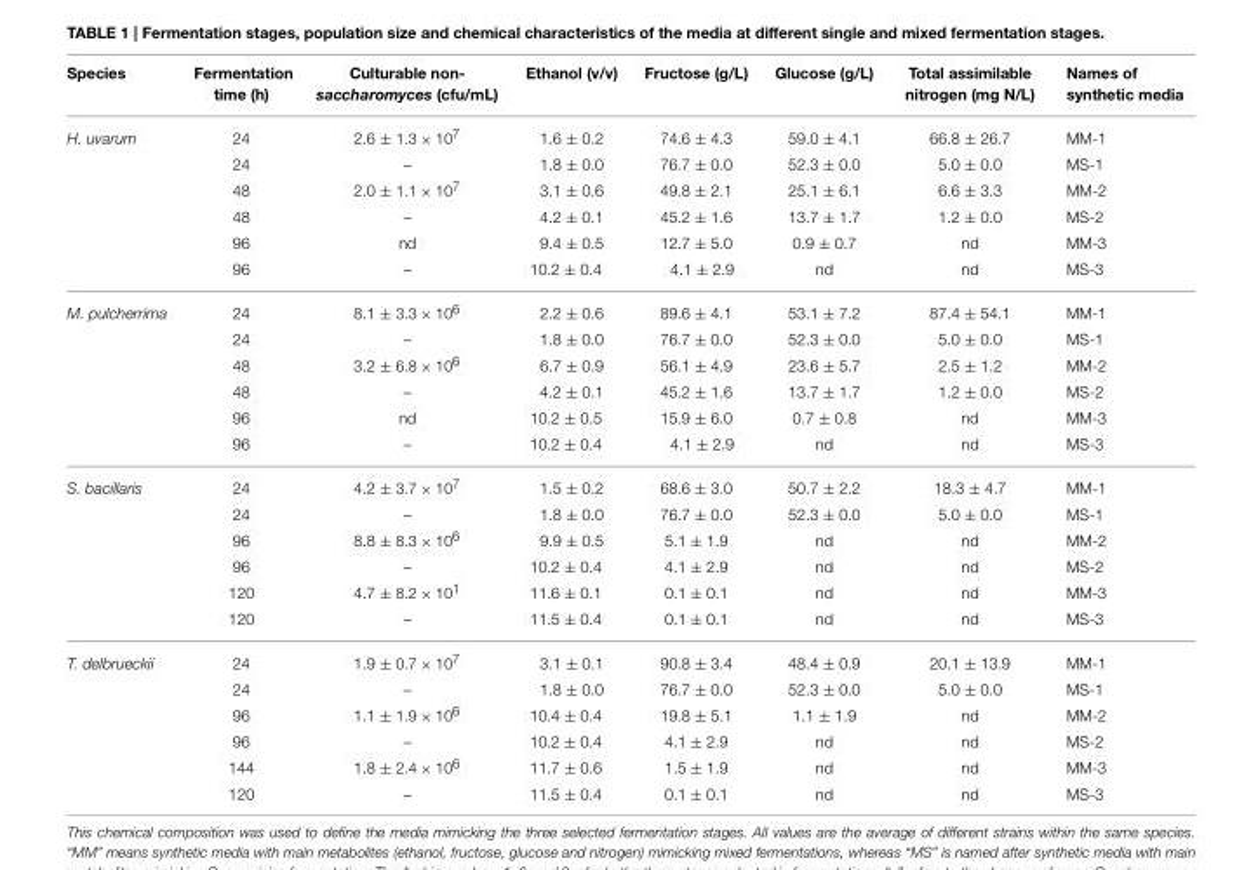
<table><thead><tr><td>Species</td><td>Fermentation time (h)</td><td>Culturable non- saccharomyces (cfu/mL)</td><td>Ethanol (v/v)</td><td>Fructose (g/L)</td><td>Glucose (g/L)</td><td>Total assimilable nitrogen (mg N/L)</td><td>Names of synthetic media</td></tr></thead><tbody><tr><td rowspan="6">H. uvarum</td><td>24</td><td>2.6 ± 1.3 × 10<sup>7</sup></td><td>1.6 ± 0.2</td><td>74.6 ± 4.3</td><td>59.0 ± 4.1</td><td>66.8 ± 26.7</td><td>MM-1</td></tr><tr><td>24</td><td>–</td><td>1.8 ± 0.0</td><td>76.7 ± 0.0</td><td>52.3 ± 0.0</td><td>5.0 ± 0.0</td><td>MS-1</td></tr><tr><td>48</td><td>2.0 ± 1.1 × 10<sup>7</sup></td><td>3.1 ± 0.6</td><td>49.8 ± 2.1</td><td>25.1 ± 6.1</td><td>6.6 ± 3.3</td><td>MM-2</td></tr><tr><td>48</td><td>–</td><td>4.2 ± 0.1</td><td>45.2 ± 1.6</td><td>13.7 ± 1.7</td><td>1.2 ± 0.0</td><td>MS-2</td></tr><tr><td>96</td><td>nd</td><td>9.4 ± 0.5</td><td>12.7 ± 5.0</td><td>0.9 ± 0.7</td><td>nd</td><td>MM-3</td></tr><tr><td>96</td><td>–</td><td>10.2 ± 0.4</td><td>4.1 ± 2.9</td><td>nd</td><td>nd</td><td>MS-3</td></tr><tr><td rowspan="6">M. pulcherrima</td><td>24</td><td>8.1 ± 3.3 × 10<sup>6</sup></td><td>2.2 ± 0.6</td><td>89.6 ± 4.1</td><td>53.1 ± 7.2</td><td>87.4 ± 54.1</td><td>MM-1</td></tr><tr><td>24</td><td>–</td><td>1.8 ± 0.0</td><td>76.7 ± 0.0</td><td>52.3 ± 0.0</td><td>5.0 ± 0.0</td><td>MS-1</td></tr><tr><td>48</td><td>3.2 ± 6.8 × 10<sup>6</sup></td><td>6.7 ± 0.9</td><td>56.1 ± 4.9</td><td>23.6 ± 5.7</td><td>2.5 ± 1.2</td><td>MM-2</td></tr><tr><td>48</td><td>–</td><td>4.2 ± 0.1</td><td>45.2 ± 1.6</td><td>13.7 ± 1.7</td><td>1.2 ± 0.0</td><td>MS-2</td></tr><tr><td>96</td><td>nd</td><td>10.2 ± 0.5</td><td>15.9 ± 6.0</td><td>0.7 ± 0.8</td><td>nd</td><td>MM-3</td></tr><tr><td>96</td><td>–</td><td>10.2 ± 0.4</td><td>4.1 ± 2.9</td><td>nd</td><td>nd</td><td>MS-3</td></tr><tr><td rowspan="6">S. bacillaris</td><td>24</td><td>4.2 ± 3.7 × 10<sup>7</sup></td><td>1.5 ± 0.2</td><td>68.6 ± 3.0</td><td>50.7 ± 2.2</td><td>18.3 ± 4.7</td><td>MM-1</td></tr><tr><td>24</td><td>–</td><td>1.8 ± 0.0</td><td>76.7 ± 0.0</td><td>52.3 ± 0.0</td><td>5.0 ± 0.0</td><td>MS-1</td></tr><tr><td>96</td><td>8.8 ± 8.3 × 10<sup>6</sup></td><td>9.9 ± 0.5</td><td>5.1 ± 1.9</td><td>nd</td><td>nd</td><td>MM-2</td></tr><tr><td>96</td><td>–</td><td>10.2 ± 0.4</td><td>4.1 ± 2.9</td><td>nd</td><td>nd</td><td>MS-2</td></tr><tr><td>120</td><td>4.7 ± 8.2 × 10<sup>1</sup></td><td>11.6 ± 0.1</td><td>0.1 ± 0.1</td><td>nd</td><td>nd</td><td>MM-3</td></tr><tr><td>120</td><td>–</td><td>11.5 ± 0.4</td><td>0.1 ± 0.1</td><td>nd</td><td>nd</td><td>MS-3</td></tr><tr><td rowspan="6">T. delbrueckii</td><td>24</td><td>1.9 ± 0.7 × 10<sup>7</sup></td><td>3.1 ± 0.1</td><td>90.8 ± 3.4</td><td>48.4 ± 0.9</td><td>20.1 ± 13.9</td><td>MM-1</td></tr><tr><td>24</td><td>–</td><td>1.8 ± 0.0</td><td>76.7 ± 0.0</td><td>52.3 ± 0.0</td><td>5.0 ± 0.0</td><td>MS-1</td></tr><tr><td>96</td><td>1.1 ± 1.9 × 10<sup>6</sup></td><td>10.4 ± 0.4</td><td>19.8 ± 5.1</td><td>1.1 ± 1.9</td><td>nd</td><td>MM-2</td></tr><tr><td>96</td><td>–</td><td>10.2 ± 0.4</td><td>4.1 ± 2.9</td><td>nd</td><td>nd</td><td>MS-2</td></tr><tr><td>144</td><td>1.8 ± 2.4 × 10<sup>6</sup></td><td>11.7 ± 0.6</td><td>1.5 ± 1.9</td><td>nd</td><td>nd</td><td>MM-3</td></tr><tr><td>120</td><td>–</td><td>11.5 ± 0.4</td><td>0.1 ± 0.1</td><td>nd</td><td>nd</td><td>MS-3</td></tr></tbody></table>